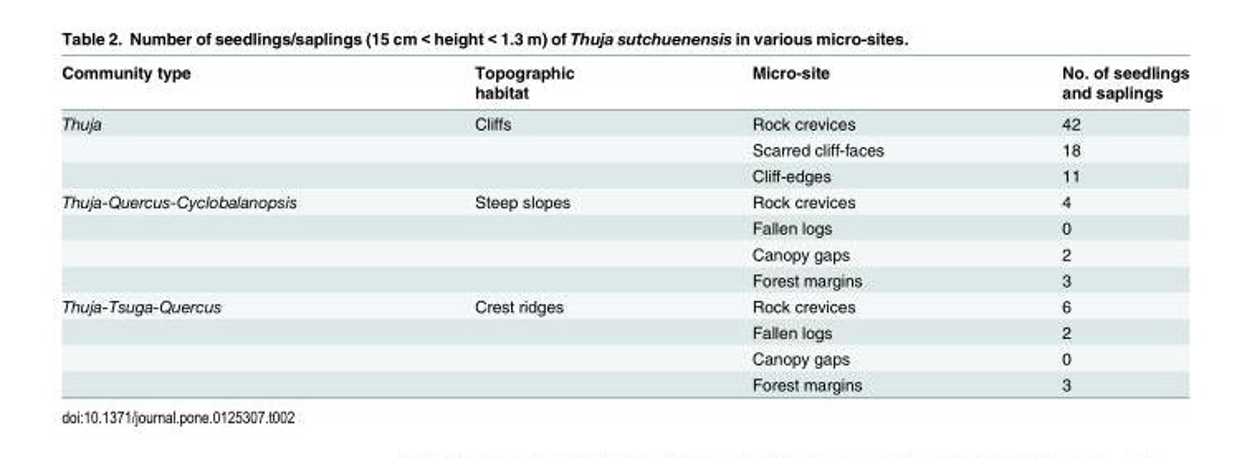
<table><thead><tr><td rowspan="2">Community type</td><td rowspan="2">Topographic habitat</td><td rowspan="2">Micro-site</td><td rowspan="2">No. of seedlings and saplings</td></tr><tr></tr></thead><tbody><tr><td rowspan="3">Thuja</td><td>Cliffs</td><td>Rock crevices</td><td>42</td></tr><tr><td></td><td>Scarred cliff-faces</td><td>18</td></tr><tr><td></td><td>Cliff-edges</td><td>11</td></tr><tr><td rowspan="4">Thuja-Quercus-Cyclobalanopsis</td><td>Steep slopes</td><td>Rock crevices</td><td>4</td></tr><tr><td></td><td>Fallen logs</td><td>0</td></tr><tr><td></td><td>Canopy gaps</td><td>2</td></tr><tr><td></td><td>Forest margins</td><td>3</td></tr><tr><td rowspan="4">Thuja-Tsuga-Quercus</td><td>Crest ridges</td><td>Rock crevices</td><td>6</td></tr><tr><td></td><td>Fallen logs</td><td>2</td></tr><tr><td></td><td>Canopy gaps</td><td>0</td></tr><tr><td></td><td>Forest margins</td><td>3</td></tr></tbody></table>